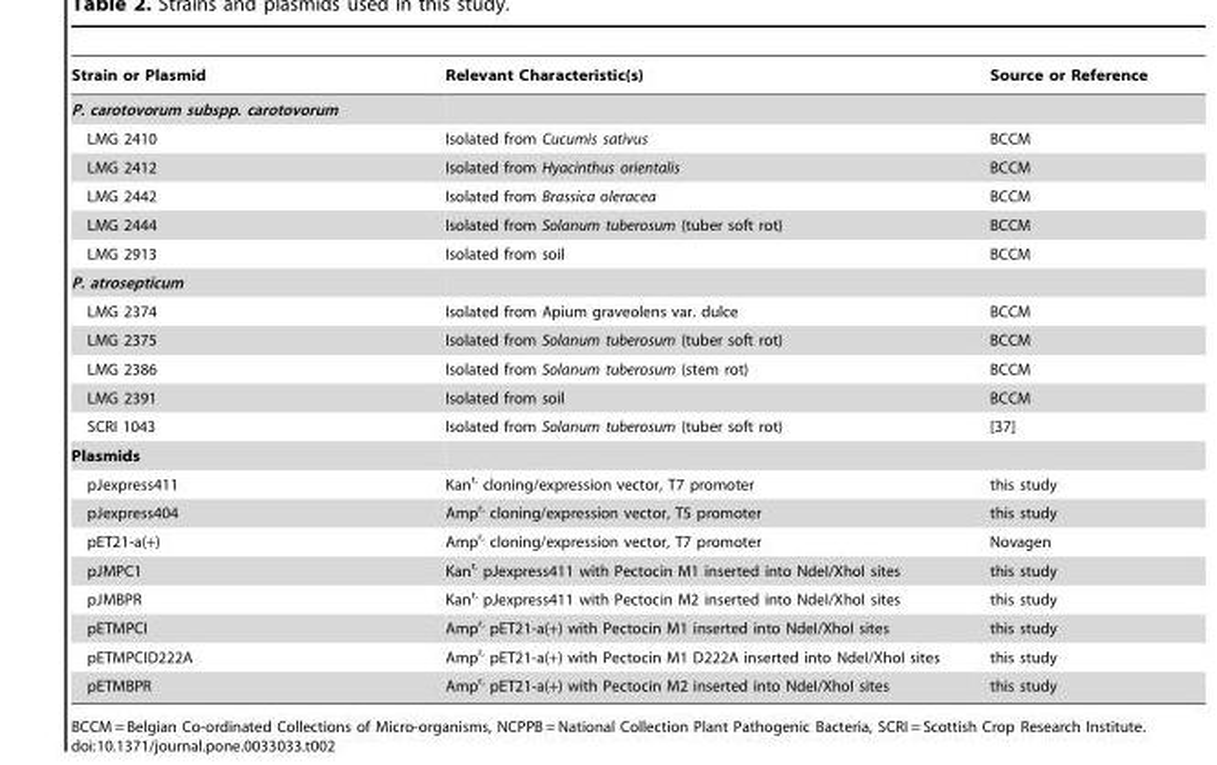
<table><thead><tr><td>Strain or Plasmid</td><td>Relevant Characteristic(s)</td><td>Source or Reference</td></tr></thead><tbody><tr><td colspan="3">P. carotovorum subspp. carotovorum</td></tr><tr><td>LMG 2410</td><td>Isolated from Cucumis sativus</td><td>BCCM</td></tr><tr><td>LMG 2412</td><td>Isolated from Hyacinthus orientalis</td><td>BCCM</td></tr><tr><td>LMG 2442</td><td>Isolated from Brassica oleracea</td><td>BCCM</td></tr><tr><td>LMG 2444</td><td>Isolated from Solanum tuberosum (tuber soft rot)</td><td>BCCM</td></tr><tr><td>LMG 2913</td><td>Isolated from soil</td><td>BCCM</td></tr><tr><td colspan="3">P. atrosepticum</td></tr><tr><td>LMG 2374</td><td>Isolated from Apium graveolens var. dulce</td><td>BCCM</td></tr><tr><td>LMG 2375</td><td>Isolated from Solanum tuberosum (tuber soft rot)</td><td>BCCM</td></tr><tr><td>LMG 2386</td><td>Isolated from Solanum tuberosum (stem rot)</td><td>BCCM</td></tr><tr><td>LMG 2391</td><td>Isolated from soil</td><td>BCCM</td></tr><tr><td>SCRI 1043</td><td>Isolated from Solanum tuberosum (tuber soft rot)</td><td>[37]</td></tr><tr><td colspan="3">Plasmids</td></tr><tr><td>pJexpress411</td><td>Kan<sup>r,</sup> cloning/expression vector, T7 promoter</td><td>this study</td></tr><tr><td>pJexpress404</td><td>Amp<sup>r,</sup> cloning/expression vector, T5 promoter</td><td>this study</td></tr><tr><td>pET21-a(+)</td><td>Amp<sup>r,</sup> cloning/expression vector, T7 promoter</td><td>Novagen</td></tr><tr><td>pJMPC1</td><td>Kan<sup>r,</sup> pJexpress411 with Pectocin M1 inserted into NdeI/XhoI sites</td><td>this study</td></tr><tr><td>pJMBPR</td><td>Kan<sup>r,</sup> pJexpress411 with Pectocin M2 inserted into NdeI/XhoI sites</td><td>this study</td></tr><tr><td>pETMPCI</td><td>Amp<sup>r,</sup> pET21-a(+) with Pectocin M1 inserted into NdeI/XhoI sites</td><td>this study</td></tr><tr><td>pETMPCID222A</td><td>Amp<sup>r,</sup> pET21-a(+) with Pectocin M1 D222A inserted into NdeI/XhoI sites</td><td>this study</td></tr><tr><td>pETMBPR</td><td>Amp<sup>r,</sup> pET21-a(+) with Pectocin M2 inserted into NdeI/XhoI sites</td><td>this study</td></tr></tbody></table>